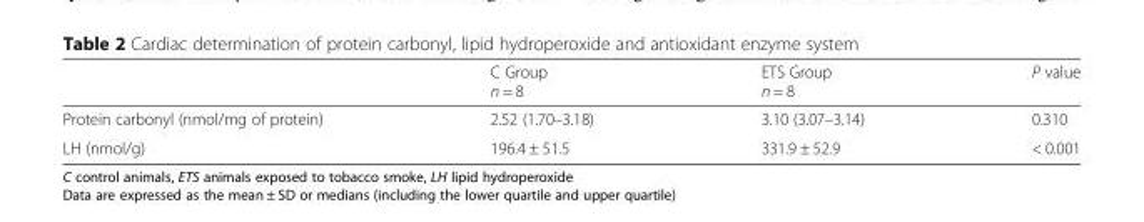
<table><thead><tr><td></td><td>C Group n = 8</td><td>ETS Group n = 8</td><td>P value</td></tr></thead><tbody><tr><td>Protein carbonyl (nmol/mg of protein)</td><td>2.52 (1.70–3.18)</td><td>3.10 (3.07–3.14)</td><td>0.310</td></tr><tr><td>LH (nmol/g)</td><td>196.4 ± 51.5</td><td>331.9 ± 52.9</td><td>&lt; 0.001</td></tr></tbody></table>